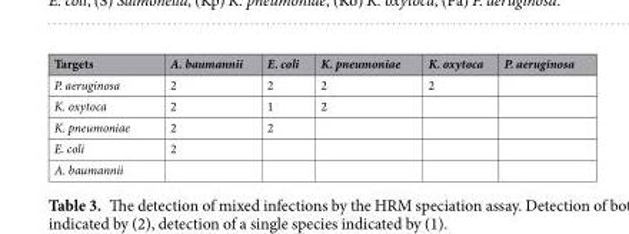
<table><thead><tr><td>Targets</td><td>A. baumannii</td><td>E. coli</td><td>K. pneumoniae</td><td>K. oxytoca</td><td>P. aeruginosa</td></tr></thead><tbody><tr><td>P. aeruginosa</td><td>2</td><td>2</td><td>2</td><td>2</td><td></td></tr><tr><td>K. oxytoca</td><td>2</td><td>1</td><td>2</td><td></td><td></td></tr><tr><td>K. pneumoniae</td><td>2</td><td>2</td><td></td><td></td><td></td></tr><tr><td>E. coli</td><td>2</td><td></td><td></td><td></td><td></td></tr><tr><td>A. baumannii</td><td></td><td></td><td></td><td></td><td></td></tr></tbody></table>